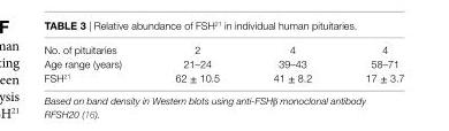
<table><tbody><tr><td>No. of pituitaries</td><td>2</td><td>4</td><td>4</td></tr><tr><td>Age range (years)</td><td>21–24</td><td>39–43</td><td>58–71</td></tr><tr><td>FSH<sup>21</sup></td><td>62 ± 10.5</td><td>41 ± 8.2</td><td>17 ± 3.7</td></tr></tbody></table>